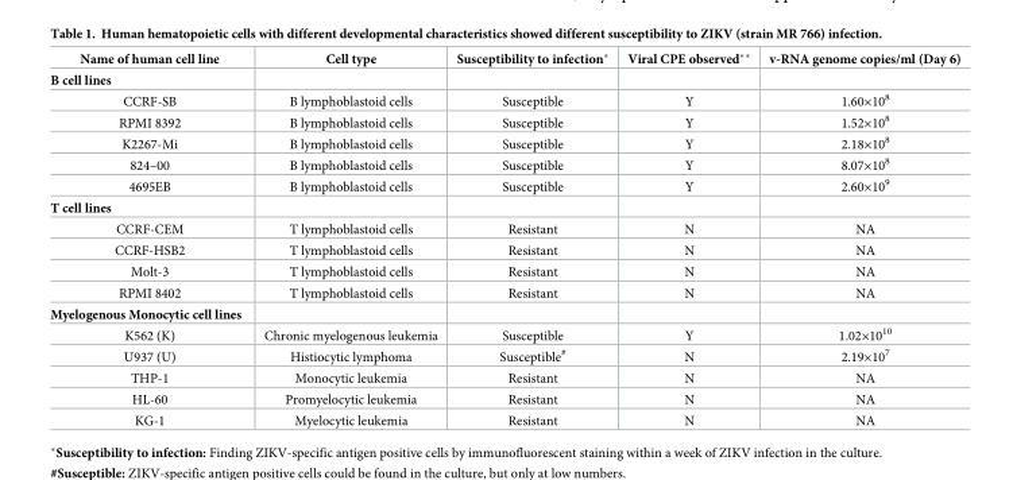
<table><thead><tr><td>Name of human cell line</td><td>Cell type</td><td>Susceptibility to infection*</td><td>Viral CPE observed**</td><td>v-RNA genome copies/ml (Day 6)</td></tr></thead><tbody><tr><td colspan="5">B cell lines</td></tr><tr><td>CCRF-SB</td><td>B lymphoblastoid cells</td><td>Susceptible</td><td>Y</td><td>1.60×10<sup>8</sup></td></tr><tr><td>RPMI 8392</td><td>B lymphoblastoid cells</td><td>Susceptible</td><td>Y</td><td>1.52×10<sup>8</sup></td></tr><tr><td>K2267-Mi</td><td>B lymphoblastoid cells</td><td>Susceptible</td><td>Y</td><td>2.18×10<sup>8</sup></td></tr><tr><td>824–00</td><td>B lymphoblastoid cells</td><td>Susceptible</td><td>Y</td><td>8.07×10<sup>8</sup></td></tr><tr><td>4695EB</td><td>B lymphoblastoid cells</td><td>Susceptible</td><td>Y</td><td>2.60×10<sup>9</sup></td></tr><tr><td colspan="5">T cell lines</td></tr><tr><td>CCRF-CEM</td><td>T lymphoblastoid cells</td><td>Resistant</td><td>N</td><td>NA</td></tr><tr><td>CCRF-HSB2</td><td>T lymphoblastoid cells</td><td>Resistant</td><td>N</td><td>NA</td></tr><tr><td>Molt-3</td><td>T lymphoblastoid cells</td><td>Resistant</td><td>N</td><td>NA</td></tr><tr><td>RPMI 8402</td><td>T lymphoblastoid cells</td><td>Resistant</td><td>N</td><td>NA</td></tr><tr><td colspan="5">Myelogenous Monocytic cell lines</td></tr><tr><td>K562 (K)</td><td>Chronic myelogenous leukemia</td><td>Susceptible</td><td>Y</td><td>1.02×10<sup>10</sup></td></tr><tr><td>U937 (U)</td><td>Histiocytic lymphoma</td><td>Susceptible<sup>#</sup></td><td>N</td><td>2.19×10<sup>7</sup></td></tr><tr><td>THP-1</td><td>Monocytic leukemia</td><td>Resistant</td><td>N</td><td>NA</td></tr><tr><td>HL-60</td><td>Promyelocytic leukemia</td><td>Resistant</td><td>N</td><td>NA</td></tr><tr><td>KG-1</td><td>Myelocytic leukemia</td><td>Resistant</td><td>N</td><td>NA</td></tr></tbody></table>